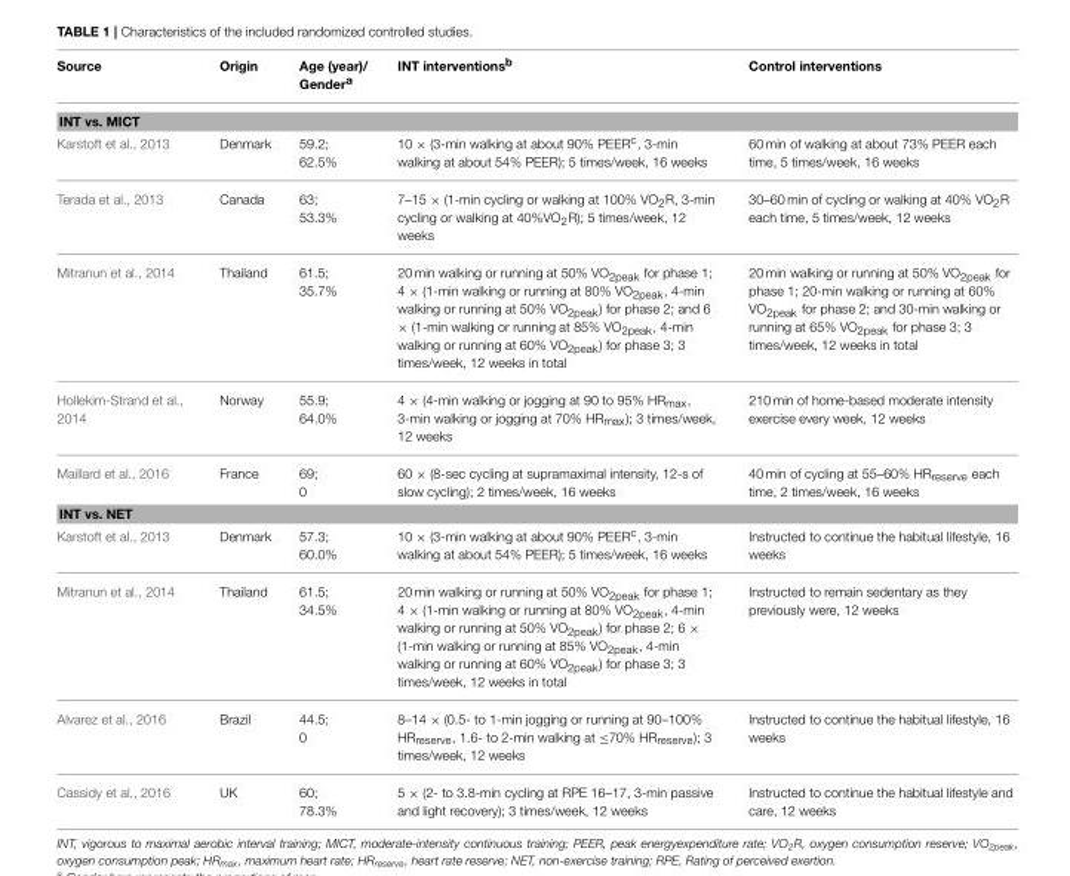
<table><thead><tr><td>Source</td><td>Origin</td><td>Age (year)/ Gender<sup>a</sup></td><td>INT interventions<sup>b</sup></td><td>Control interventions</td></tr></thead><tbody><tr><td colspan="5">INT vs. MICT</td></tr><tr><td>Karstoft et al., 2013</td><td>Denmark</td><td>59.2; 62.5%</td><td>10 × (3-min walking at about 90% PEER<sup>c</sup>, 3-min walking at about 54% PEER); 5 times/week, 16 weeks</td><td>60 min of walking at about 73% PEER each time, 5 times/week, 16 weeks</td></tr><tr><td>Terada et al., 2013</td><td>Canada</td><td>63; 53.3%</td><td>7–15 × (1-min cycling or walking at 100% VO<sub>2</sub>R, 3-min cycling or walking at 40%VO<sub>2</sub>R); 5 times/week, 12 weeks</td><td>30–60 min of cycling or walking at 40% VO<sub>2</sub>R each time, 5 times/week, 12 weeks</td></tr><tr><td>Mitranun et al., 2014</td><td>Thailand</td><td>61.5; 35.7%</td><td>20 min walking or running at 50% VO<sub>2peak</sub> for phase 1; 4 × (1-min walking or running at 80% VO<sub>2peak</sub>, 4-min walking or running at 50% VO<sub>2peak</sub>) for phase 2; and 6 × (1-min walking or running at 85% VO<sub>2peak</sub>, 4-min walking or running at 60% VO<sub>2peak</sub>) for phase 3; 3 times/week, 12 weeks in total</td><td>20 min walking or running at 50% VO<sub>2peak</sub> for phase 1; 20-min walking or running at 60% VO<sub>2peak</sub> for phase 2; and 30-min walking or running at 65% VO<sub>2peak</sub> for phase 3; 3 times/week, 12 weeks in total</td></tr><tr><td>Hollekim-Strand et al., 2014</td><td>Norway</td><td>55.9; 64.0%</td><td>4 × (4-min walking or jogging at 90 to 95% HR<sub>max</sub>, 3-min walking or jogging at 70% HR<sub>max</sub>); 3 times/week, 12 weeks</td><td>210 min of home-based moderate intensity exercise every week, 12 weeks</td></tr><tr><td>Maillard et al., 2016</td><td>France</td><td>69; 0</td><td>60 × (8-sec cycling at supramaximal intensity, 12-s of slow cycling); 2 times/week, 16 weeks</td><td>40 min of cycling at 55–60% HR<sub>reserve</sub> each time, 2 times/week, 16 weeks</td></tr><tr><td colspan="5">INT vs. NET</td></tr><tr><td>Karstoft et al., 2013</td><td>Denmark</td><td>57.3; 60.0%</td><td>10 × (3-min walking at about 90% PEER<sup>c</sup>, 3-min walking at about 54% PEER); 5 times/week, 16 weeks</td><td>Instructed to continue the habitual lifestyle, 16 weeks</td></tr><tr><td>Mitranun et al., 2014</td><td>Thailand</td><td>61.5; 34.5%</td><td>20 min walking or running at 50% VO<sub>2peak</sub> for phase 1; 4 × (1-min walking or running at 80% VO<sub>2peak</sub>, 4-min walking or running at 50% VO<sub>2peak</sub>) for phase 2; 6 × (1-min walking or running at 85% VO<sub>2peak</sub>, 4-min walking or running at 60% VO<sub>2peak</sub>) for phase 3; 3 times/week, 12 weeks in total</td><td>Instructed to remain sedentary as they previously were, 12 weeks</td></tr><tr><td>Alvarez et al., 2016</td><td>Brazil</td><td>44.5; 0</td><td>8–14 × (0.5- to 1-min jogging or running at 90–100% HR<sub>reserve</sub>, 1.6- to 2-min walking at ≤70% HR<sub>reserve</sub>); 3 times/week, 12 weeks</td><td>Instructed to continue the habitual lifestyle, 16 weeks</td></tr><tr><td>Cassidy et al., 2016</td><td>UK</td><td>60; 78.3%</td><td>5 × (2- to 3.8-min cycling at RPE 16–17, 3-min passive and light recovery); 3 times/week, 12 weeks</td><td>Instructed to continue the habitual lifestyle and care, 12 weeks</td></tr></tbody></table>